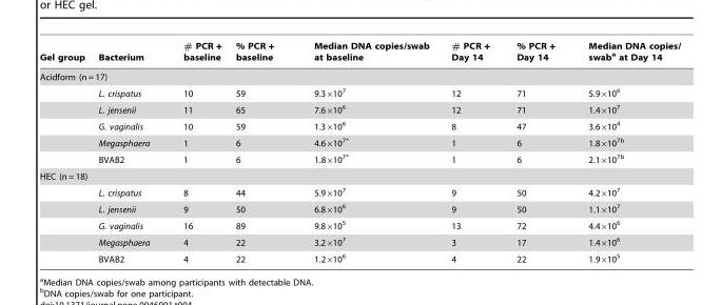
<table><thead><tr><td>Gel group</td><td>Bacterium</td><td># PCR + baseline</td><td>% PCR + baseline</td><td>Median DNA copies/swab at baseline</td><td># PCR + Day 14</td><td>% PCR + Day 14</td><td>Median DNA copies/ swab<sup>a</sup> at Day 14</td></tr></thead><tbody><tr><td colspan="8">Acidform (n = 17)</td></tr><tr><td></td><td>L. crispatus</td><td>10</td><td>59</td><td>9.3×10<sup>7</sup></td><td>12</td><td>71</td><td>5.9×10<sup>6</sup></td></tr><tr><td></td><td>L. jensenii</td><td>11</td><td>65</td><td>7.6×10<sup>6</sup></td><td>12</td><td>71</td><td>1.4×10<sup>7</sup></td></tr><tr><td></td><td>G. vaginalis</td><td>10</td><td>59</td><td>1.3×10<sup>6</sup></td><td>8</td><td>47</td><td>3.6×10<sup>4</sup></td></tr><tr><td></td><td>Megasphaera</td><td>1</td><td>6</td><td>4.6×10<sup>7*</sup></td><td>1</td><td>6</td><td>1.8×10<sup>7b</sup></td></tr><tr><td></td><td>BVAB2</td><td>1</td><td>6</td><td>1.8×10<sup>7*</sup></td><td>1</td><td>6</td><td>2.1×10<sup>7b</sup></td></tr><tr><td colspan="8">HEC (n = 18)</td></tr><tr><td></td><td>L. crispatus</td><td>8</td><td>44</td><td>5.9×10<sup>7</sup></td><td>9</td><td>50</td><td>4.2×10<sup>7</sup></td></tr><tr><td></td><td>L. jensenii</td><td>9</td><td>50</td><td>6.8×10<sup>6</sup></td><td>9</td><td>50</td><td>1.1×10<sup>7</sup></td></tr><tr><td></td><td>G. vaginalis</td><td>16</td><td>89</td><td>9.8×10<sup>5</sup></td><td>13</td><td>72</td><td>4.4×10<sup>6</sup></td></tr><tr><td></td><td>Megasphaera</td><td>4</td><td>22</td><td>3.2×10<sup>7</sup></td><td>3</td><td>17</td><td>1.4×10<sup>6</sup></td></tr><tr><td></td><td>BVAB2</td><td>4</td><td>22</td><td>1.2×10<sup>6</sup></td><td>4</td><td>22</td><td>1.9×10<sup>5</sup></td></tr></tbody></table>